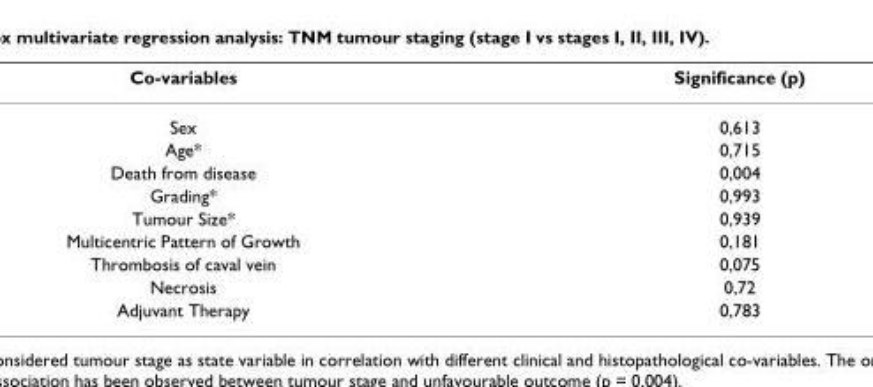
<table><thead><tr><td>Co-variables</td><td>Significance (p)</td></tr></thead><tbody><tr><td>Sex</td><td>0,613</td></tr><tr><td>Age*</td><td>0,715</td></tr><tr><td>Death from disease</td><td>0,004</td></tr><tr><td>Grading*</td><td>0,993</td></tr><tr><td>Tumour Size*</td><td>0,939</td></tr><tr><td>Multicentric Pattern of Growth</td><td>0,181</td></tr><tr><td>Thrombosis of caval vein</td><td>0,075</td></tr><tr><td>Necrosis</td><td>0,72</td></tr><tr><td>Adjuvant Therapy</td><td>0,783</td></tr></tbody></table>